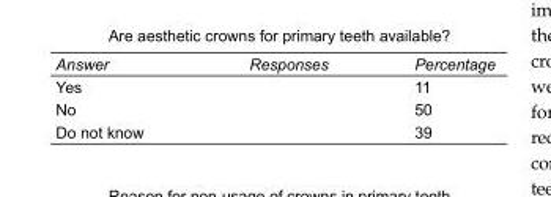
<table><tbody><tr><td>Answer</td><td>Responses</td><td>Percentage</td></tr><tr><td>Yes</td><td></td><td>11</td></tr><tr><td>No</td><td></td><td>50</td></tr><tr><td>Do not know</td><td></td><td>39</td></tr></tbody></table>